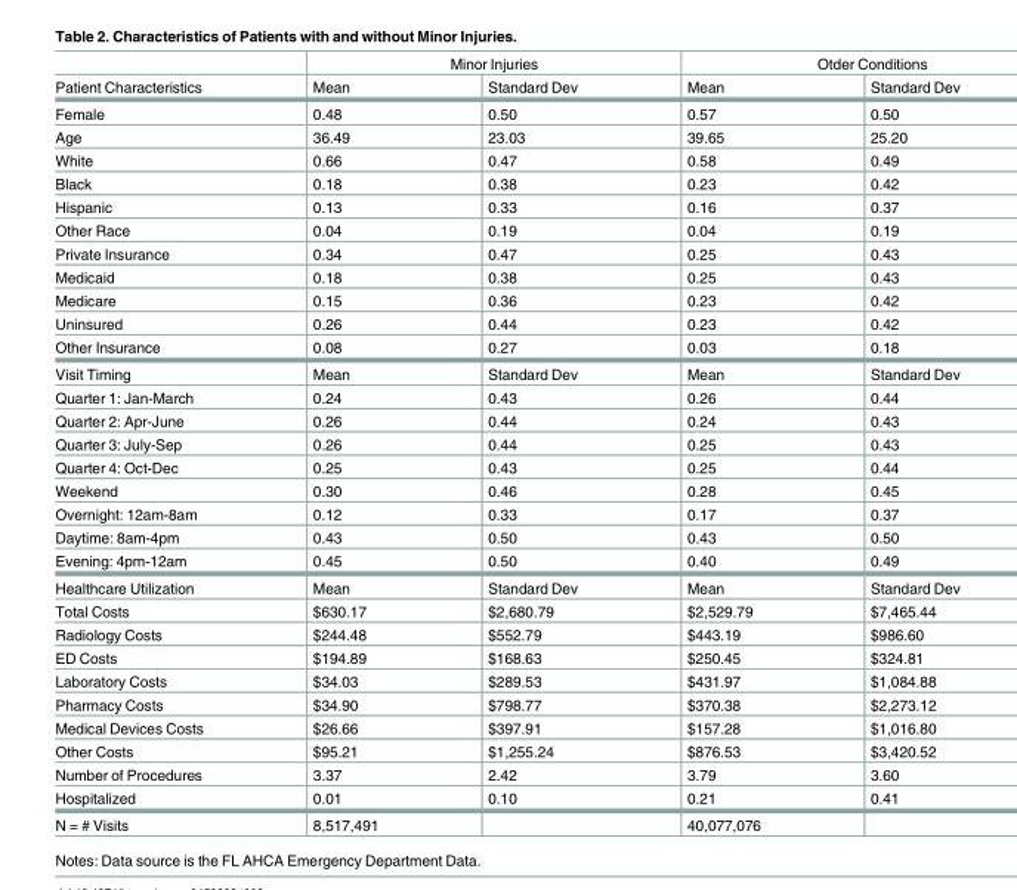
<table><thead><tr><td rowspan="2">Patient Characteristics</td><td colspan="2">Minor Injuries</td><td colspan="2">Otder Conditions</td></tr><tr><td>Mean</td><td>Standard Dev</td><td>Mean</td><td>Standard Dev</td></tr></thead><tbody><tr><td>Female</td><td>0.48</td><td>0.50</td><td>0.57</td><td>0.50</td></tr><tr><td>Age</td><td>36.49</td><td>23.03</td><td>39.65</td><td>25.20</td></tr><tr><td>White</td><td>0.66</td><td>0.47</td><td>0.58</td><td>0.49</td></tr><tr><td>Black</td><td>0.18</td><td>0.38</td><td>0.23</td><td>0.42</td></tr><tr><td>Hispanic</td><td>0.13</td><td>0.33</td><td>0.16</td><td>0.37</td></tr><tr><td>Other Race</td><td>0.04</td><td>0.19</td><td>0.04</td><td>0.19</td></tr><tr><td>Private Insurance</td><td>0.34</td><td>0.47</td><td>0.25</td><td>0.43</td></tr><tr><td>Medicaid</td><td>0.18</td><td>0.38</td><td>0.25</td><td>0.43</td></tr><tr><td>Medicare</td><td>0.15</td><td>0.36</td><td>0.23</td><td>0.42</td></tr><tr><td>Uninsured</td><td>0.26</td><td>0.44</td><td>0.23</td><td>0.42</td></tr><tr><td>Other Insurance</td><td>0.08</td><td>0.27</td><td>0.03</td><td>0.18</td></tr><tr><td>Visit Timing</td><td>Mean</td><td>Standard Dev</td><td>Mean</td><td>Standard Dev</td></tr><tr><td>Quarter 1: Jan-March</td><td>0.24</td><td>0.43</td><td>0.26</td><td>0.44</td></tr><tr><td>Quarter 2: Apr-June</td><td>0.26</td><td>0.44</td><td>0.24</td><td>0.43</td></tr><tr><td>Quarter 3: July-Sep</td><td>0.26</td><td>0.44</td><td>0.25</td><td>0.43</td></tr><tr><td>Quarter 4: Oct-Dec</td><td>0.25</td><td>0.43</td><td>0.25</td><td>0.44</td></tr><tr><td>Weekend</td><td>0.30</td><td>0.46</td><td>0.28</td><td>0.45</td></tr><tr><td>Overnight: 12am-8am</td><td>0.12</td><td>0.33</td><td>0.17</td><td>0.37</td></tr><tr><td>Daytime: 8am-4pm</td><td>0.43</td><td>0.50</td><td>0.43</td><td>0.50</td></tr><tr><td>Evening: 4pm-12am</td><td>0.45</td><td>0.50</td><td>0.40</td><td>0.49</td></tr><tr><td>Healthcare Utilization</td><td>Mean</td><td>Standard Dev</td><td>Mean</td><td>Standard Dev</td></tr><tr><td>Total Costs</td><td>$630.17</td><td>$2,680.79</td><td>$2,529.79</td><td>$7,465.44</td></tr><tr><td>Radiology Costs</td><td>$244.48</td><td>$552.79</td><td>$443.19</td><td>$986.60</td></tr><tr><td>ED Costs</td><td>$194.89</td><td>$168.63</td><td>$250.45</td><td>$324.81</td></tr><tr><td>Laboratory Costs</td><td>$34.03</td><td>$289.53</td><td>$431.97</td><td>$1,084.88</td></tr><tr><td>Pharmacy Costs</td><td>$34.90</td><td>$798.77</td><td>$370.38</td><td>$2,273.12</td></tr><tr><td>Medical Devices Costs</td><td>$26.66</td><td>$397.91</td><td>$157.28</td><td>$1,016.80</td></tr><tr><td>Other Costs</td><td>$95.21</td><td>$1,255.24</td><td>$876.53</td><td>$3,420.52</td></tr><tr><td>Number of Procedures</td><td>3.37</td><td>2.42</td><td>3.79</td><td>3.60</td></tr><tr><td>Hospitalized</td><td>0.01</td><td>0.10</td><td>0.21</td><td>0.41</td></tr><tr><td>N = # Visits</td><td>8,517,491</td><td></td><td>40,077,076</td><td></td></tr></tbody></table>